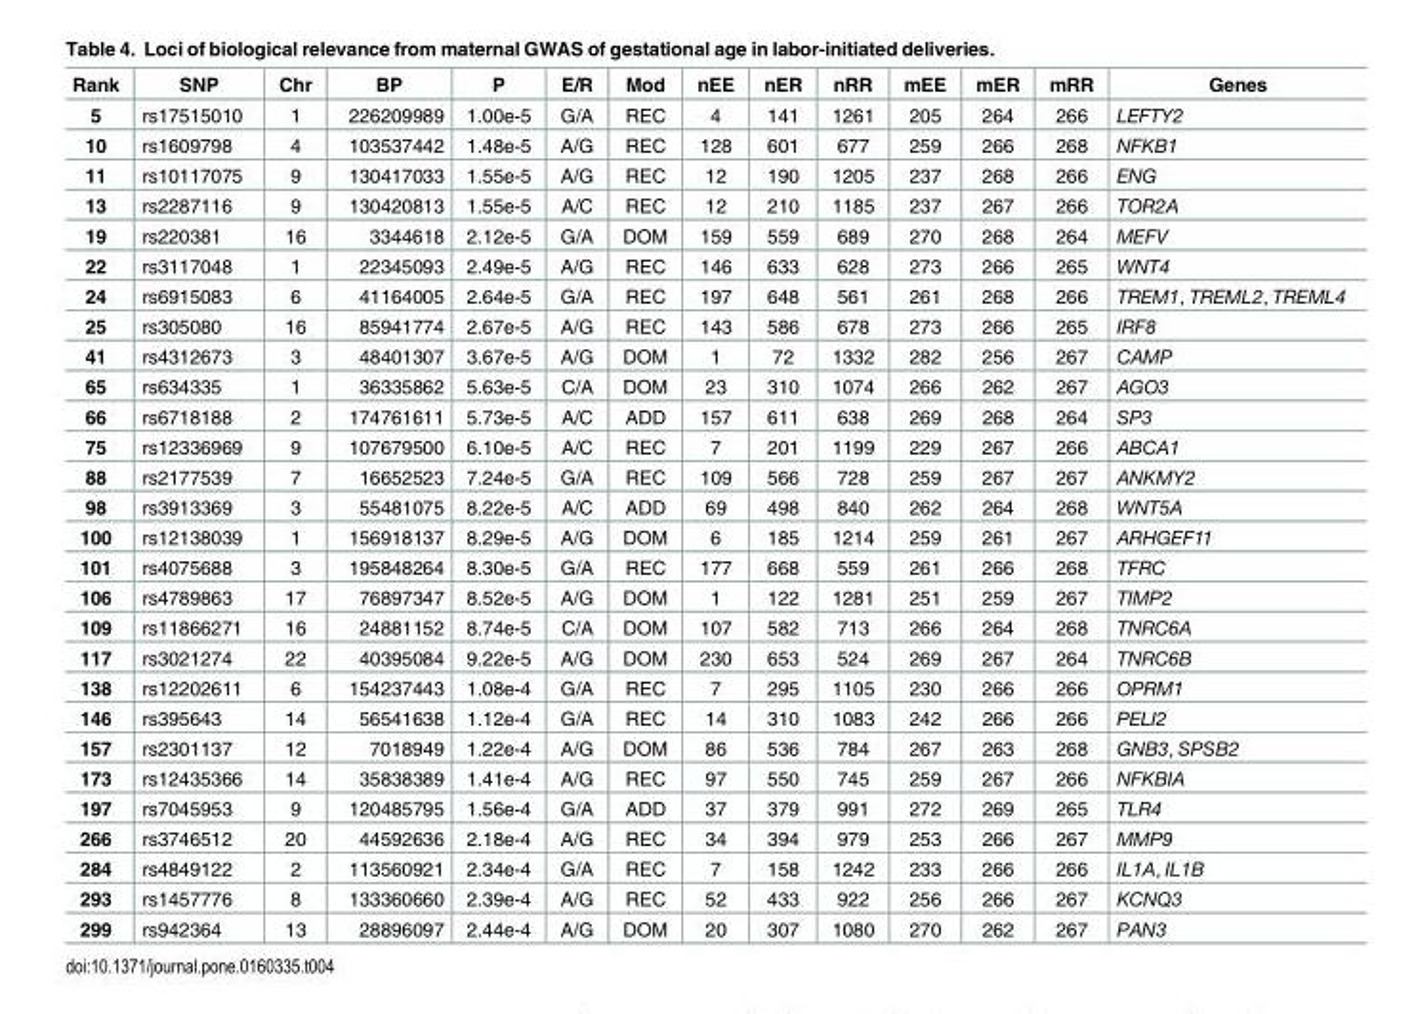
<table><thead><tr><td>Rank</td><td>SNP</td><td>Chr</td><td>BP</td><td>P</td><td>E/R</td><td>Mod</td><td>nEE</td><td>nER</td><td>nRR</td><td>mEE</td><td>mER</td><td>mRR</td><td>Genes</td></tr></thead><tbody><tr><td>5</td><td>rs17515010</td><td>1</td><td>226209989</td><td>1.00e-5</td><td>G/A</td><td>REC</td><td>4</td><td>141</td><td>1261</td><td>205</td><td>264</td><td>266</td><td>LEFTY2</td></tr><tr><td>10</td><td>rs1609798</td><td>4</td><td>103537442</td><td>1.48e-5</td><td>A/G</td><td>REC</td><td>128</td><td>601</td><td>677</td><td>259</td><td>266</td><td>268</td><td>NFKB1</td></tr><tr><td>11</td><td>rs10117075</td><td>9</td><td>130417033</td><td>1.55e-5</td><td>A/G</td><td>REC</td><td>12</td><td>190</td><td>1205</td><td>237</td><td>268</td><td>266</td><td>ENG</td></tr><tr><td>13</td><td>rs2287116</td><td>9</td><td>130420813</td><td>1.55e-5</td><td>A/C</td><td>REC</td><td>12</td><td>210</td><td>1185</td><td>237</td><td>267</td><td>266</td><td>TOR2A</td></tr><tr><td>19</td><td>rs220381</td><td>16</td><td>3344618</td><td>2.12e-5</td><td>G/A</td><td>DOM</td><td>159</td><td>559</td><td>689</td><td>270</td><td>268</td><td>264</td><td>MEFV</td></tr><tr><td>22</td><td>rs3117048</td><td>1</td><td>22345093</td><td>2.49e-5</td><td>A/G</td><td>REC</td><td>146</td><td>633</td><td>628</td><td>273</td><td>266</td><td>265</td><td>WNT4</td></tr><tr><td>24</td><td>rs6915083</td><td>6</td><td>41164005</td><td>2.64e-5</td><td>G/A</td><td>REC</td><td>197</td><td>648</td><td>561</td><td>261</td><td>268</td><td>266</td><td>TREM1, TREML2, TREML4</td></tr><tr><td>25</td><td>rs305080</td><td>16</td><td>85941774</td><td>2.67e-5</td><td>A/G</td><td>REC</td><td>143</td><td>586</td><td>678</td><td>273</td><td>266</td><td>265</td><td>IRF8</td></tr><tr><td>41</td><td>rs4312673</td><td>3</td><td>48401307</td><td>3.67e-5</td><td>A/G</td><td>DOM</td><td>1</td><td>72</td><td>1332</td><td>282</td><td>256</td><td>267</td><td>CAMP</td></tr><tr><td>65</td><td>rs634335</td><td>1</td><td>36335862</td><td>5.63e-5</td><td>C/A</td><td>DOM</td><td>23</td><td>310</td><td>1074</td><td>266</td><td>262</td><td>267</td><td>AGO3</td></tr><tr><td>66</td><td>rs6718188</td><td>2</td><td>174761611</td><td>5.73e-5</td><td>A/C</td><td>ADD</td><td>157</td><td>611</td><td>638</td><td>269</td><td>268</td><td>264</td><td>SP3</td></tr><tr><td>75</td><td>rs12336969</td><td>9</td><td>107679500</td><td>6.10e-5</td><td>A/C</td><td>REC</td><td>7</td><td>201</td><td>1199</td><td>229</td><td>267</td><td>266</td><td>ABCA1</td></tr><tr><td>88</td><td>rs2177539</td><td>7</td><td>16652523</td><td>7.24e-5</td><td>G/A</td><td>REC</td><td>109</td><td>566</td><td>728</td><td>259</td><td>267</td><td>267</td><td>ANKMY2</td></tr><tr><td>98</td><td>rs3913369</td><td>3</td><td>55481075</td><td>8.22e-5</td><td>A/C</td><td>ADD</td><td>69</td><td>498</td><td>840</td><td>262</td><td>264</td><td>268</td><td>WNT5A</td></tr><tr><td>100</td><td>rs12138039</td><td>1</td><td>156918137</td><td>8.29e-5</td><td>A/G</td><td>DOM</td><td>6</td><td>185</td><td>1214</td><td>259</td><td>261</td><td>267</td><td>ARHGEF11</td></tr><tr><td>101</td><td>rs4075688</td><td>3</td><td>195848264</td><td>8.30e-5</td><td>G/A</td><td>REC</td><td>177</td><td>668</td><td>559</td><td>261</td><td>266</td><td>268</td><td>TFRC</td></tr><tr><td>106</td><td>rs4789863</td><td>17</td><td>76897347</td><td>8.52e-5</td><td>A/G</td><td>DOM</td><td>1</td><td>122</td><td>1281</td><td>251</td><td>259</td><td>267</td><td>TIMP2</td></tr><tr><td>109</td><td>rs11866271</td><td>16</td><td>24881152</td><td>8.74e-5</td><td>C/A</td><td>DOM</td><td>107</td><td>582</td><td>713</td><td>266</td><td>264</td><td>268</td><td>TNRC6A</td></tr><tr><td>117</td><td>rs3021274</td><td>22</td><td>40395084</td><td>9.22e-5</td><td>A/G</td><td>DOM</td><td>230</td><td>653</td><td>524</td><td>269</td><td>267</td><td>264</td><td>TNRC6B</td></tr><tr><td>138</td><td>rs12202611</td><td>6</td><td>154237443</td><td>1.08e-4</td><td>G/A</td><td>REC</td><td>7</td><td>295</td><td>1105</td><td>230</td><td>266</td><td>266</td><td>OPRM1</td></tr><tr><td>146</td><td>rs395643</td><td>14</td><td>56541638</td><td>1.12e-4</td><td>G/A</td><td>REC</td><td>14</td><td>310</td><td>1083</td><td>242</td><td>266</td><td>266</td><td>PELI2</td></tr><tr><td>157</td><td>rs2301137</td><td>12</td><td>7018949</td><td>1.22e-4</td><td>A/G</td><td>DOM</td><td>86</td><td>536</td><td>784</td><td>267</td><td>263</td><td>268</td><td>GNB3, SPSB2</td></tr><tr><td>173</td><td>rs12435366</td><td>14</td><td>35838389</td><td>1.41e-4</td><td>A/G</td><td>REC</td><td>97</td><td>550</td><td>745</td><td>259</td><td>267</td><td>266</td><td>NFKBIA</td></tr><tr><td>197</td><td>rs7045953</td><td>9</td><td>120485795</td><td>1.56e-4</td><td>G/A</td><td>ADD</td><td>37</td><td>379</td><td>991</td><td>272</td><td>269</td><td>265</td><td>TLR4</td></tr><tr><td>266</td><td>rs3746512</td><td>20</td><td>44592636</td><td>2.18e-4</td><td>A/G</td><td>REC</td><td>34</td><td>394</td><td>979</td><td>253</td><td>266</td><td>267</td><td>MMP9</td></tr><tr><td>284</td><td>rs4849122</td><td>2</td><td>113560921</td><td>2.34e-4</td><td>G/A</td><td>REC</td><td>7</td><td>158</td><td>1242</td><td>233</td><td>266</td><td>266</td><td>IL1A, IL1B</td></tr><tr><td>293</td><td>rs1457776</td><td>8</td><td>133360660</td><td>2.39e-4</td><td>A/G</td><td>REC</td><td>52</td><td>433</td><td>922</td><td>256</td><td>266</td><td>267</td><td>KCNQ3</td></tr><tr><td>299</td><td>rs942364</td><td>13</td><td>28896097</td><td>2.44e-4</td><td>A/G</td><td>DOM</td><td>20</td><td>307</td><td>1080</td><td>270</td><td>262</td><td>267</td><td>PAN3</td></tr></tbody></table>